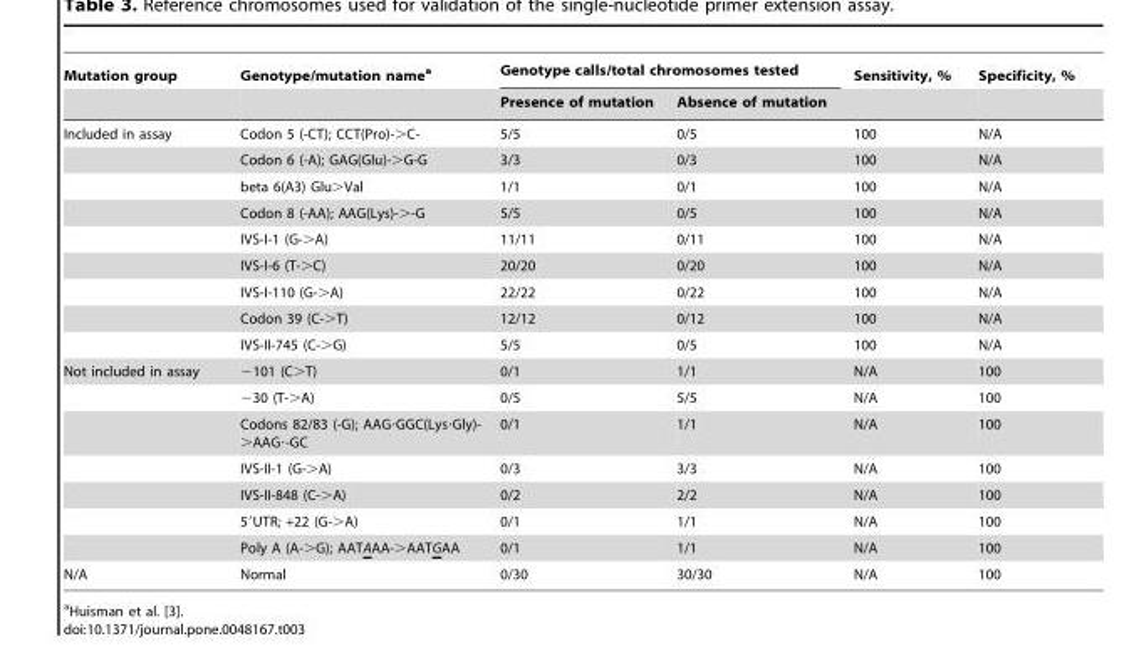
<table><thead><tr><td rowspan="2">Mutation group</td><td rowspan="2">Genotype/mutation name<sup>a</sup></td><td colspan="2">Genotype calls/total chromosomes tested</td><td rowspan="2">Sensitivity, %</td><td rowspan="2">Specificity, %</td></tr><tr><td>Presence of mutation</td><td>Absence of mutation</td></tr></thead><tbody><tr><td rowspan="9">Included in assay</td><td>Codon 5 (-CT); CCT(Pro)-&gt;C-</td><td>5/5</td><td>0/5</td><td>100</td><td>N/A</td></tr><tr><td>Codon 6 (-A); GAG(Glu)-&gt;G-G</td><td>3/3</td><td>0/3</td><td>100</td><td>N/A</td></tr><tr><td>beta 6(A3) Glu&gt;Val</td><td>1/1</td><td>0/1</td><td>100</td><td>N/A</td></tr><tr><td>Codon 8 (-AA); AAG(Lys)-&gt;-G</td><td>5/5</td><td>0/5</td><td>100</td><td>N/A</td></tr><tr><td>IVS-I-1 (G-&gt;A)</td><td>11/11</td><td>0/11</td><td>100</td><td>N/A</td></tr><tr><td>IVS-I-6 (T-&gt;C)</td><td>20/20</td><td>0/20</td><td>100</td><td>N/A</td></tr><tr><td>IVS-I-110 (G-&gt;A)</td><td>22/22</td><td>0/22</td><td>100</td><td>N/A</td></tr><tr><td>Codon 39 (C-&gt;T)</td><td>12/12</td><td>0/12</td><td>100</td><td>N/A</td></tr><tr><td>IVS-II-745 (C-&gt;G)</td><td>5/5</td><td>0/5</td><td>100</td><td>N/A</td></tr><tr><td rowspan="7">Not included in assay</td><td>−101 (C&gt;T)</td><td>0/1</td><td>1/1</td><td>N/A</td><td>100</td></tr><tr><td>−30 (T-&gt;A)</td><td>0/5</td><td>5/5</td><td>N/A</td><td>100</td></tr><tr><td>Codons 82/83 (-G); AAG·GGC(Lys·Gly)- &gt;AAG·-GC</td><td>0/1</td><td>1/1</td><td>N/A</td><td>100</td></tr><tr><td>IVS-II-1 (G-&gt;A)</td><td>0/3</td><td>3/3</td><td>N/A</td><td>100</td></tr><tr><td>IVS-II-848 (C-&gt;A)</td><td>0/2</td><td>2/2</td><td>N/A</td><td>100</td></tr><tr><td>5′UTR; +22 (G-&gt;A)</td><td>0/1</td><td>1/1</td><td>N/A</td><td>100</td></tr><tr><td>Poly A (A-&gt;G); AATAAA-&gt;AATGAA</td><td>0/1</td><td>1/1</td><td>N/A</td><td>100</td></tr><tr><td>N/A</td><td>Normal</td><td>0/30</td><td>30/30</td><td>N/A</td><td>100</td></tr></tbody></table>